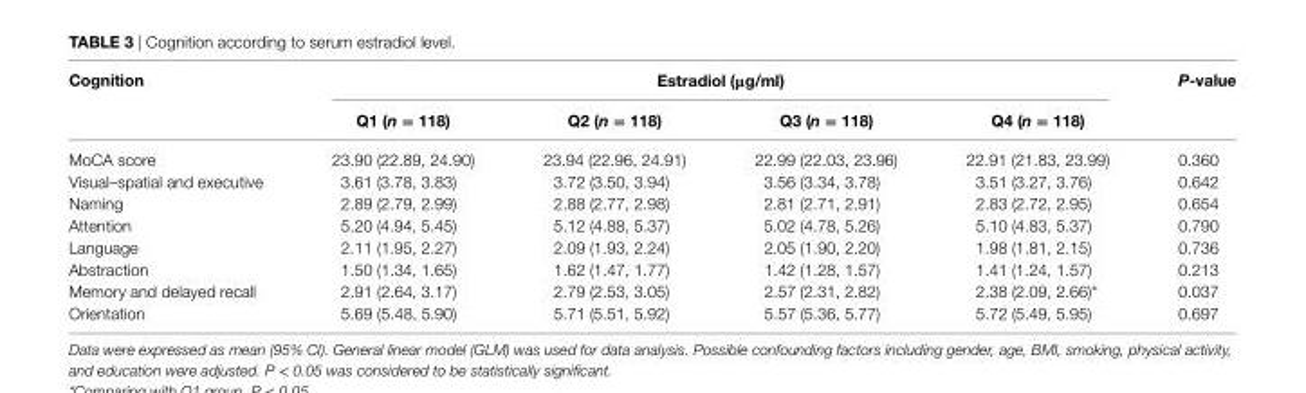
<table><thead><tr><td rowspan="2">cognition</td><td colspan="4">estradiol (μg/ml)</td><td rowspan="2">P-value</td></tr><tr><td>Q1 (n = 118)</td><td>Q2 (n = 118)</td><td>Q3 (n = 118)</td><td>Q4 (n = 118)</td></tr></thead><tbody><tr><td>MoCA score</td><td>23.90 (22.89, 24.90)</td><td>23.94 (22.96, 24.91)</td><td>22.99 (22.03, 23.96)</td><td>22.91 (21.83, 23.99)</td><td>0.360</td></tr><tr><td>Visual–spatial and executive</td><td>3.61 (3.78, 3.83)</td><td>3.72 (3.50, 3.94)</td><td>3.56 (3.34, 3.78)</td><td>3.51 (3.27, 3.76)</td><td>0.642</td></tr><tr><td>Naming</td><td>2.89 (2.79, 2.99)</td><td>2.88 (2.77, 2.98)</td><td>2.81 (2.71, 2.91)</td><td>2.83 (2.72, 2.95)</td><td>0.654</td></tr><tr><td>Attention</td><td>5.20 (4.94, 5.45)</td><td>5.12 (4.88, 5.37)</td><td>5.02 (4.78, 5.26)</td><td>5.10 (4.83, 5.37)</td><td>0.790</td></tr><tr><td>Language</td><td>2.11 (1.95, 2.27)</td><td>2.09 (1.93, 2.24)</td><td>2.05 (1.90, 2.20)</td><td>1.98 (1.81, 2.15)</td><td>0.736</td></tr><tr><td>Abstraction</td><td>1.50 (1.34, 1.65)</td><td>1.62 (1.47, 1.77)</td><td>1.42 (1.28, 1.57)</td><td>1.41 (1.24, 1.57)</td><td>0.213</td></tr><tr><td>Memory and delayed recall</td><td>2.91 (2.64, 3.17)</td><td>2.79 (2.53, 3.05)</td><td>2.57 (2.31, 2.82)</td><td>2.38 (2.09, 2.66)*</td><td>0.037</td></tr><tr><td>Orientation</td><td>5.69 (5.48, 5.90)</td><td>5.71 (5.51, 5.92)</td><td>5.57 (5.36, 5.77)</td><td>5.72 (5.49, 5.95)</td><td>0.697</td></tr></tbody></table>